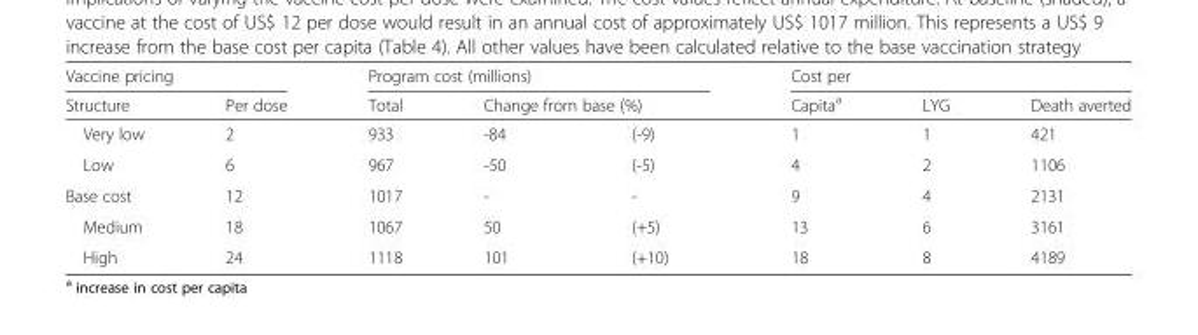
<table><thead><tr><td colspan="2">Vaccine pricing</td><td colspan="3">Program cost (millions)</td><td colspan="3">Cost per</td></tr><tr><td rowspan="2">Structure Very low</td><td rowspan="2">Per dose 2</td><td rowspan="2">Total 933</td><td colspan="2">Change from base (%)</td><td rowspan="2">Capita<sup>a</sup> 1</td><td rowspan="2">LYG 1</td><td rowspan="2">Death averted 421</td></tr><tr><td>-84</td><td>(-9)</td></tr></thead><tbody><tr><td>Low</td><td>6</td><td>967</td><td>-50</td><td>(-5)</td><td>4</td><td>2</td><td>1106</td></tr><tr><td>Base cost</td><td>12</td><td>1017</td><td>-</td><td>-</td><td>9</td><td>4</td><td>2131</td></tr><tr><td>Medium</td><td>18</td><td>1067</td><td>50</td><td>(+5)</td><td>13</td><td>6</td><td>3161</td></tr><tr><td>High</td><td>24</td><td>1118</td><td>101</td><td>(+10)</td><td>18</td><td>8</td><td>4189</td></tr></tbody></table>